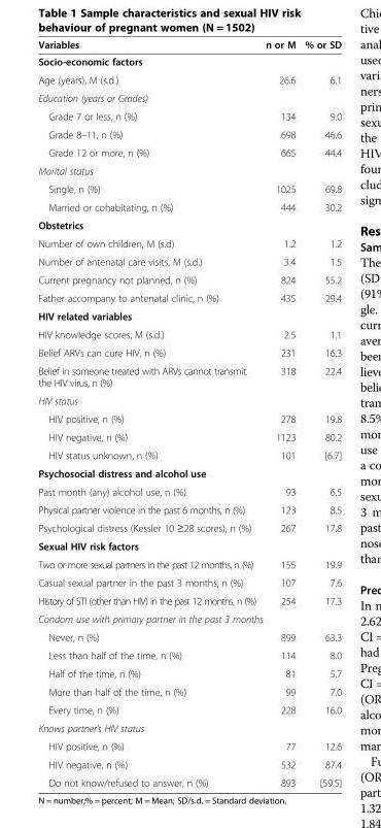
<table><thead><tr><td>Variables</td><td>n or M</td><td>% or SD</td></tr></thead><tbody><tr><td colspan="3">Socio-economic factors</td></tr><tr><td>Age (years), M (s.d.)</td><td>26.6</td><td>6.1</td></tr><tr><td colspan="3">Education (years or Grades)</td></tr><tr><td>Grade 7 or less, n (%)</td><td>134</td><td>9.0</td></tr><tr><td>Grade 8–11, n (%)</td><td>698</td><td>46.6</td></tr><tr><td>Grade 12 or more, n (%)</td><td>665</td><td>44.4</td></tr><tr><td colspan="3">Marital status</td></tr><tr><td>Single, n (%)</td><td>1025</td><td>69.8</td></tr><tr><td>Married or cohabitating, n (%)</td><td>444</td><td>30.2</td></tr><tr><td colspan="3">Obstetrics</td></tr><tr><td>Number of own children, M (s.d)</td><td>1.2</td><td>1.2</td></tr><tr><td>Number of antenatal care visits, M (s.d.)</td><td>3.4</td><td>1.5</td></tr><tr><td>Current pregnancy not planned, n (%)</td><td>824</td><td>55.2</td></tr><tr><td>Father accompany to antenatal clinic, n (%)</td><td>435</td><td>29.4</td></tr><tr><td colspan="3">HIV related variables</td></tr><tr><td>HIV knowledge scores, M (s.d.)</td><td>2.5</td><td>1.1</td></tr><tr><td>Belief ARVs can cure HIV, n (%)</td><td>231</td><td>16.3</td></tr><tr><td>Belief in someone treated with ARVs cannot transmit the HIV virus, n (%)</td><td>318</td><td>22.4</td></tr><tr><td colspan="3">HIV status</td></tr><tr><td>HIV positive, n (%)</td><td>278</td><td>19.8</td></tr><tr><td>HIV negative, n (%)</td><td>1123</td><td>80.2</td></tr><tr><td>HIV status unknown, n (%)</td><td>101</td><td>[6.7]</td></tr><tr><td colspan="3">Psychosocial distress and alcohol use</td></tr><tr><td>Past month (any) alcohol use, n (%)</td><td>93</td><td>6.5</td></tr><tr><td>Physical partner violence in the past 6 months, n (%)</td><td>123</td><td>8.5</td></tr><tr><td>Psychological distress (Kessler 10 ≥28 scores), n (%)</td><td>267</td><td>17.8</td></tr><tr><td colspan="3">Sexual HIV risk factors</td></tr><tr><td>Two or more sexual partners in the past 12 months, n (%)</td><td>155</td><td>19.9</td></tr><tr><td>Casual sexual partner in the past 3 months, n (%)</td><td>107</td><td>7.6</td></tr><tr><td>History of STI (other than HIV) in the past 12 months, n (%)</td><td>254</td><td>17.3</td></tr><tr><td colspan="3">Condom use with primary partner in the past 3 months</td></tr><tr><td>Never, n (%)</td><td>899</td><td>63.3</td></tr><tr><td>Less than half of the time, n (%)</td><td>114</td><td>8.0</td></tr><tr><td>Half of the time, n (%)</td><td>81</td><td>5.7</td></tr><tr><td>More than half of the time, n (%)</td><td>99</td><td>7.0</td></tr><tr><td>Every time, n (%)</td><td>228</td><td>16.0</td></tr><tr><td colspan="3">Knows partner’s HIV status</td></tr><tr><td>HIV positive, n (%)</td><td>77</td><td>12.6</td></tr><tr><td>HIV negative, n (%)</td><td>532</td><td>87.4</td></tr><tr><td>Do not know/refused to answer, n (%)</td><td>893</td><td>[59.5]</td></tr></tbody></table>